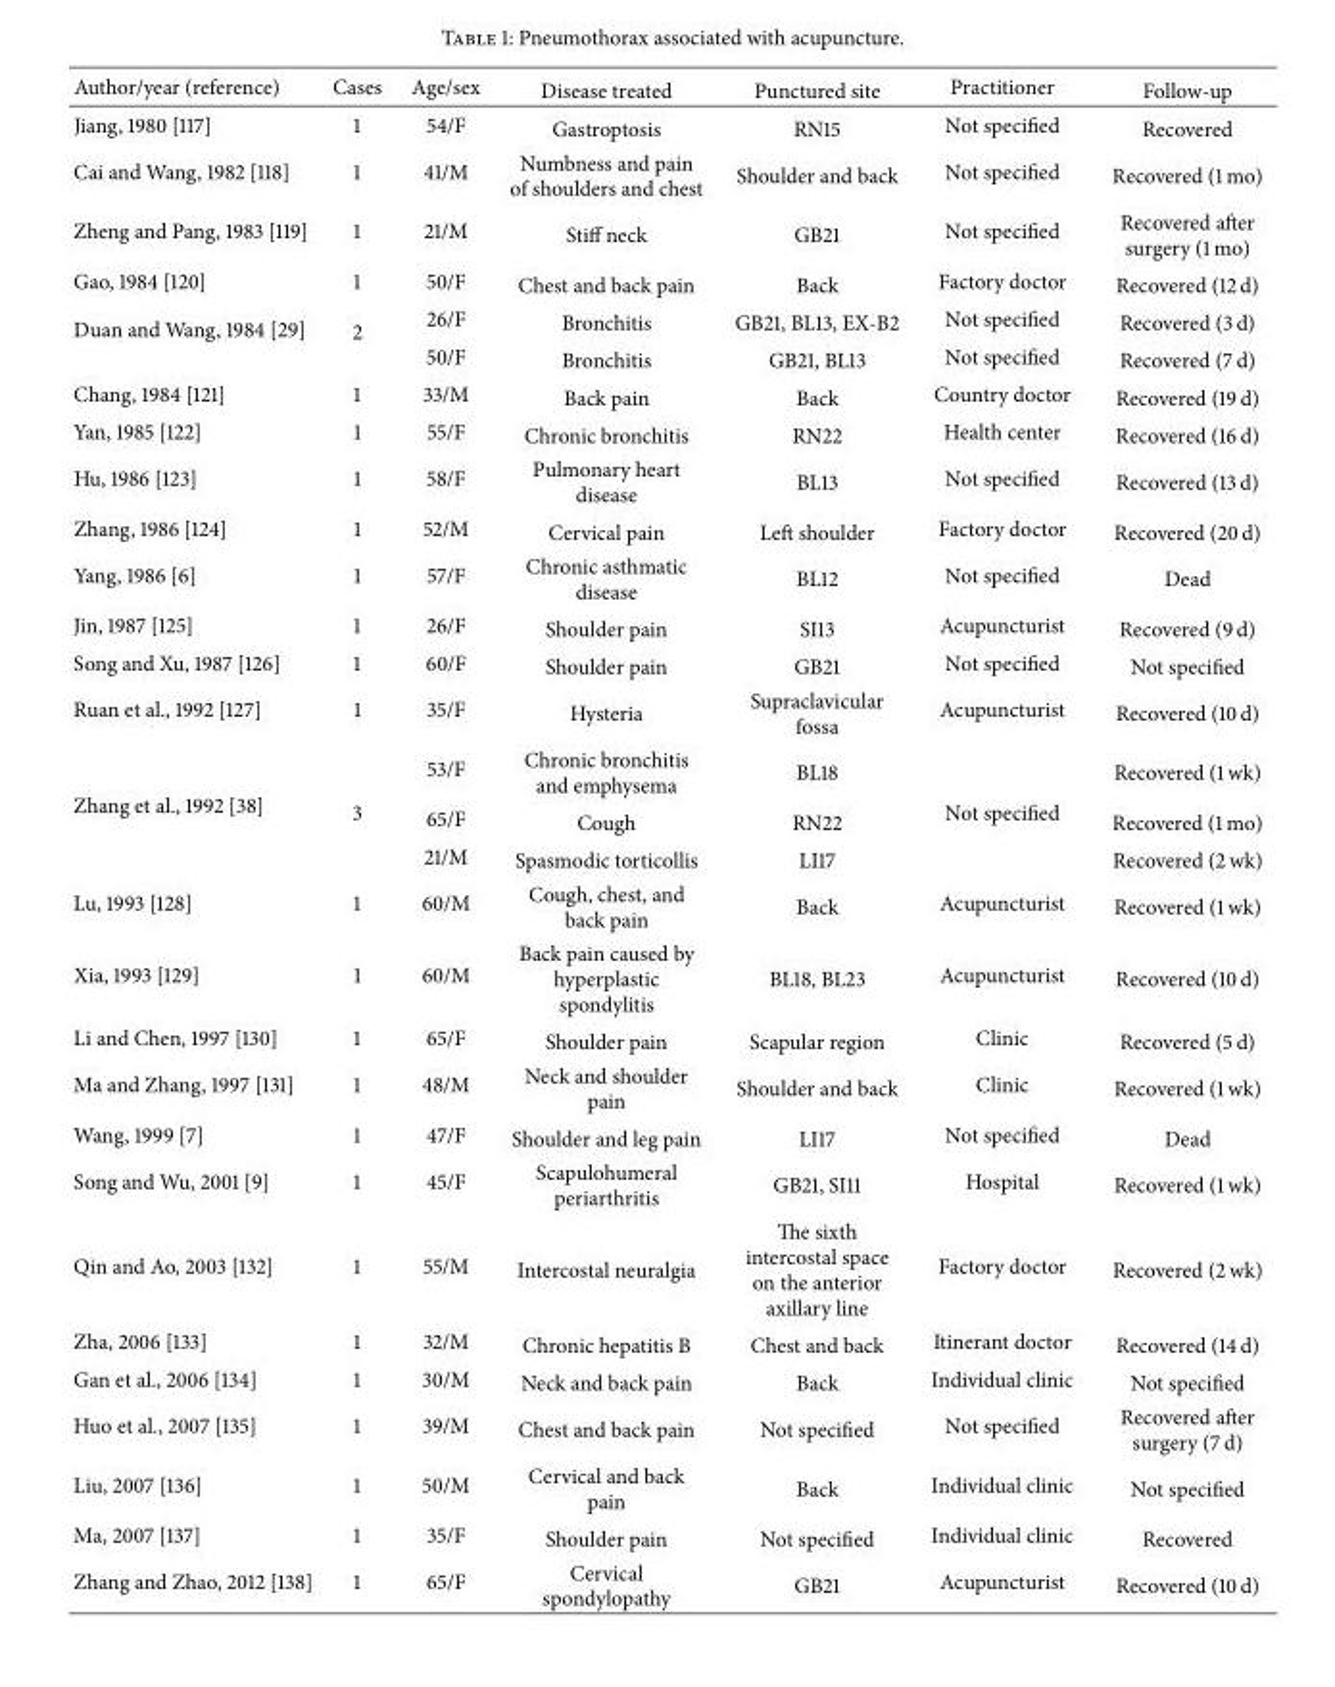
<table><thead><tr><td>Author/year (reference)</td><td>Cases</td><td>Age/sex</td><td>Disease treated</td><td>Punctured site</td><td>Practitioner</td><td>Follow-up</td></tr></thead><tbody><tr><td>Jiang, 1980 [117]</td><td>1</td><td>54/F</td><td>Gastroptosis</td><td>RN15</td><td>Not specified</td><td>Recovered</td></tr><tr><td>Cai and Wang, 1982 [118]</td><td>1</td><td>41/M</td><td>Numbness and pain of shoulders and chest</td><td>Shoulder and back</td><td>Not specified</td><td>Recovered (1 mo)</td></tr><tr><td>Zheng and Pang, 1983 [119]</td><td>1</td><td>21/M</td><td>Stiff neck</td><td>GB21</td><td>Not specified</td><td>Recovered after surgery (1 mo)</td></tr><tr><td>Gao, 1984 [120]</td><td>1</td><td>50/F</td><td>Chest and back pain</td><td>Back</td><td>Factory doctor</td><td>Recovered (12 d)</td></tr><tr><td rowspan="2">Duan and Wang, 1984 [29]</td><td rowspan="2">2</td><td>26/F</td><td>Bronchitis</td><td>GB21, BL13, EX-B2</td><td>Not specified</td><td>Recovered (3 d)</td></tr><tr><td>50/F</td><td>Bronchitis</td><td>GB21, BL13</td><td>Not specified</td><td>Recovered (7 d)</td></tr><tr><td>Chang, 1984 [121]</td><td>1</td><td>33/M</td><td>Back pain</td><td>Back</td><td>Country doctor</td><td>Recovered (19 d)</td></tr><tr><td>Yan, 1985 [122]</td><td>1</td><td>55/F</td><td>Chronic bronchitis</td><td>RN22</td><td>Health center</td><td>Recovered (16 d)</td></tr><tr><td>Hu, 1986 [123]</td><td>1</td><td>58/F</td><td>Pulmonary heart disease</td><td>BL13</td><td>Not specified</td><td>Recovered (13 d)</td></tr><tr><td>Zhang, 1986 [124]</td><td>1</td><td>52/M</td><td>Cervical pain</td><td>Left shoulder</td><td>Factory doctor</td><td>Recovered (20 d)</td></tr><tr><td>Yang, 1986 [6]</td><td>1</td><td>57/F</td><td>Chronic asthmatic disease</td><td>BL12</td><td>Not specified</td><td>Dead</td></tr><tr><td>Jin, 1987 [125]</td><td>1</td><td>26/F</td><td>Shoulder pain</td><td>SI13</td><td>Acupuncturist</td><td>Recovered (9 d)</td></tr><tr><td>Song and Xu, 1987 [126]</td><td>1</td><td>60/F</td><td>Shoulder pain</td><td>GB21</td><td>Not specified</td><td>Not specified</td></tr><tr><td>Ruan et al., 1992 [127]</td><td>1</td><td>35/F</td><td>Hysteria</td><td>Supraclavicular fossa</td><td>Acupuncturist</td><td>Recovered (10 d)</td></tr><tr><td rowspan="3">Zhang et al., 1992 [38]</td><td rowspan="3">3</td><td>53/F</td><td>Chronic bronchitis and emphysema</td><td>BL18</td><td rowspan="3">Not specified</td><td>Recovered (1 wk)</td></tr><tr><td>65/F</td><td>Cough</td><td>RN22</td><td>Recovered (1 mo)</td></tr><tr><td>21/M</td><td>Spasmodic torticollis</td><td>LI17</td><td>Recovered (2 wk)</td></tr><tr><td>Lu, 1993 [128]</td><td>1</td><td>60/M</td><td>Cough, chest, and back pain</td><td>Back</td><td>Acupuncturist</td><td>Recovered (1 wk)</td></tr><tr><td>Xia, 1993 [129]</td><td>1</td><td>60/M</td><td>Back pain caused by hyperplastic spondylitis</td><td>BL18, BL23</td><td>Acupuncturist</td><td>Recovered (10 d)</td></tr><tr><td>Li and Chen, 1997 [130]</td><td>1</td><td>65/F</td><td>Shoulder pain</td><td>Scapular region</td><td>Clinic</td><td>Recovered (5 d)</td></tr><tr><td>Ma and Zhang, 1997 [131]</td><td>1</td><td>48/M</td><td>Neck and shoulder pain</td><td>Shoulder and back</td><td>Clinic</td><td>Recovered (1 wk)</td></tr><tr><td>Wang, 1999 [7]</td><td>1</td><td>47/F</td><td>Shoulder and leg pain</td><td>LI17</td><td>Not specified</td><td>Dead</td></tr><tr><td>Song and Wu, 2001 [9]</td><td>1</td><td>45/F</td><td>Scapulohumeral periarthritis</td><td>GB21, SI11</td><td>Hospital</td><td>Recovered (1 wk)</td></tr><tr><td>Qin and Ao, 2003 [132]</td><td>1</td><td>55/M</td><td>Intercostal neuralgia</td><td>The sixth intercostal space on the anterior axillary line</td><td>Factory doctor</td><td>Recovered (2 wk)</td></tr><tr><td>Zha, 2006 [133]</td><td>1</td><td>32/M</td><td>Chronic hepatitis B</td><td>Chest and back</td><td>Itinerant doctor</td><td>Recovered (14 d)</td></tr><tr><td>Gan et al., 2006 [134]</td><td>1</td><td>30/M</td><td>Neck and back pain</td><td>Back</td><td>Individual clinic</td><td>Not specified</td></tr><tr><td>Huo et al., 2007 [135]</td><td>1</td><td>39/M</td><td>Chest and back pain</td><td>Not specified</td><td>Not specified</td><td>Recovered after surgery (7 d)</td></tr><tr><td>Liu, 2007 [136]</td><td>1</td><td>50/M</td><td>Cervical and back pain</td><td>Back</td><td>Individual clinic</td><td>Not specified</td></tr><tr><td>Ma, 2007 [137]</td><td>1</td><td>35/F</td><td>Shoulder pain</td><td>Not specified</td><td>Individual clinic</td><td>Recovered</td></tr><tr><td>Zhang and Zhao, 2012 [138]</td><td>1</td><td>65/F</td><td>Cervical spondylopathy</td><td>GB21</td><td>Acupuncturist</td><td>Recovered (10 d)</td></tr></tbody></table>